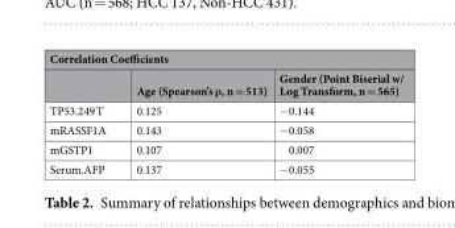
<table><thead><tr><td colspan="3">Correlation Coefficients</td></tr><tr><td></td><td>Age (Spearson’s ρ, n = 513)</td><td>Gender (Point Biserial w/ Log Transform, n = 565)</td></tr></thead><tbody><tr><td>TP53.249 T</td><td>0.125</td><td>−0.144</td></tr><tr><td>mRASSF1A</td><td>0.143</td><td>−0.058</td></tr><tr><td>mGSTP1</td><td>0.107</td><td>0.007</td></tr><tr><td>Serum.AFP</td><td>0.137</td><td>−0.055</td></tr></tbody></table>